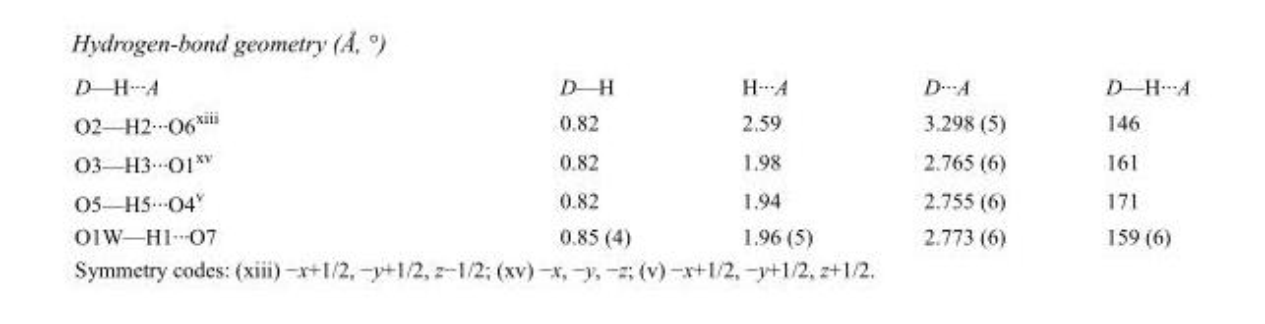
<table><tbody><tr><td>D—H···A</td><td>D—H</td><td>H···A</td><td>D···A</td><td>D—H···A</td></tr><tr><td>O2—H2···O6<sup>xiii</sup></td><td>0.82</td><td>2.59</td><td>3.298 (5)</td><td>146</td></tr><tr><td>O3—H3···O1<sup>xv</sup></td><td>0.82</td><td>1.98</td><td>2.765 (6)</td><td>161</td></tr><tr><td>O5—H5···O4<sup>v</sup></td><td>0.82</td><td>1.94</td><td>2.755 (6)</td><td>171</td></tr><tr><td>O1W—H1···O7</td><td>0.85 (4)</td><td>1.96 (5)</td><td>2.773 (6)</td><td>159 (6)</td></tr></tbody></table>